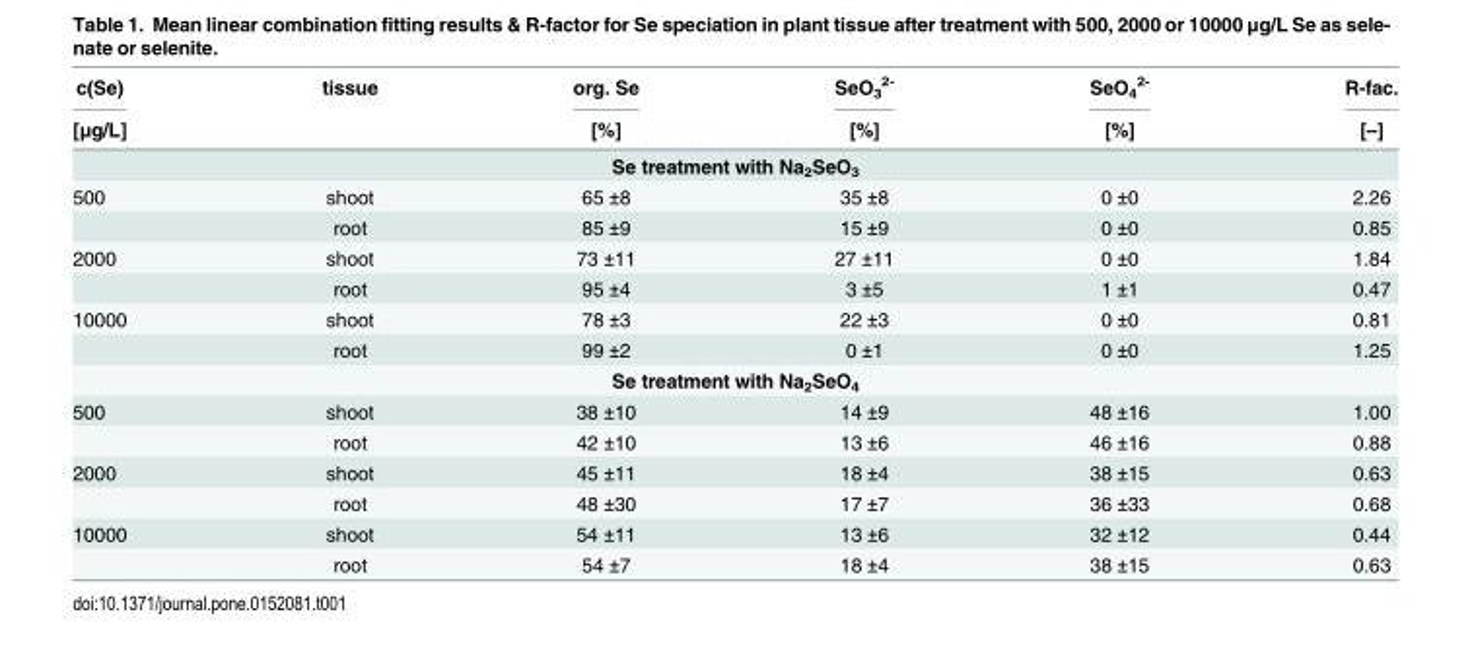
<table><thead><tr><td rowspan="2">c(Se) [μg/L]</td><td rowspan="2">tissue</td><td rowspan="2">org. Se [%]</td><td rowspan="2">SeO<sub>3</sub> <sup>2-</sup> [%]</td><td rowspan="2">SeO<sub>4</sub> <sup>2-</sup> [%]</td><td rowspan="2">R-fac. [–]</td></tr><tr></tr></thead><tbody><tr><td colspan="6">Se treatment with Na<sub>2</sub>SeO<sub>3</sub></td></tr><tr><td rowspan="2">500</td><td>shoot</td><td>65 ±8</td><td>35 ±8</td><td>0 ±0</td><td>2.26</td></tr><tr><td>root</td><td>85 ±9</td><td>15 ±9</td><td>0 ±0</td><td>0.85</td></tr><tr><td rowspan="2">2000</td><td>shoot</td><td>73 ±11</td><td>27 ±11</td><td>0 ±0</td><td>1.84</td></tr><tr><td>root</td><td>95 ±4</td><td>3 ±5</td><td>1 ±1</td><td>0.47</td></tr><tr><td rowspan="2">10000</td><td>shoot</td><td>78 ±3</td><td>22 ±3</td><td>0 ±0</td><td>0.81</td></tr><tr><td>root</td><td>99 ±2</td><td>0 ±1</td><td>0 ±0</td><td>1.25</td></tr><tr><td colspan="6">Se treatment with Na<sub>2</sub>SeO<sub>4</sub></td></tr><tr><td rowspan="2">500</td><td>shoot</td><td>38 ±10</td><td>14 ±9</td><td>48 ±16</td><td>1.00</td></tr><tr><td>root</td><td>42 ±10</td><td>13 ±6</td><td>46 ±16</td><td>0.88</td></tr><tr><td rowspan="2">2000</td><td>shoot</td><td>45 ±11</td><td>18 ±4</td><td>38 ±15</td><td>0.63</td></tr><tr><td>root</td><td>48 ±30</td><td>17 ±7</td><td>36 ±33</td><td>0.68</td></tr><tr><td rowspan="2">10000</td><td>shoot</td><td>54 ±11</td><td>13 ±6</td><td>32 ±12</td><td>0.44</td></tr><tr><td>root</td><td>54 ±7</td><td>18 ±4</td><td>38 ±15</td><td>0.63</td></tr></tbody></table>